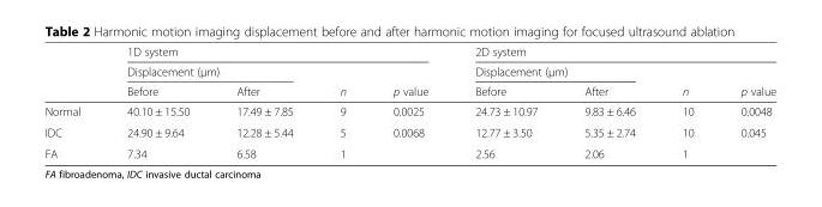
<table><thead><tr><td rowspan="3"></td><td colspan="4">1D system</td><td colspan="4">2D system</td></tr><tr><td colspan="2">Displacement (μm)</td><td rowspan="2">n</td><td rowspan="2">p value</td><td colspan="2">Displacement (μm)</td><td rowspan="2">n</td><td rowspan="2">p value</td></tr><tr><td>Before</td><td>After</td><td>Before</td><td>After</td></tr></thead><tbody><tr><td>Normal</td><td>40.10 ± 15.50</td><td>17.49 ± 7.85</td><td>9</td><td>0.0025</td><td>24.73 ± 10.97</td><td>9.83 ± 6.46</td><td>10</td><td>0.0048</td></tr><tr><td>IDC</td><td>24.90 ± 9.64</td><td>12.28 ± 5.44</td><td>5</td><td>0.0068</td><td>12.77 ± 3.50</td><td>5.35 ± 2.74</td><td>10</td><td>0.045</td></tr><tr><td>FA</td><td>7.34</td><td>6.58</td><td>1</td><td></td><td>2.56</td><td>2.06</td><td>1</td><td></td></tr></tbody></table>